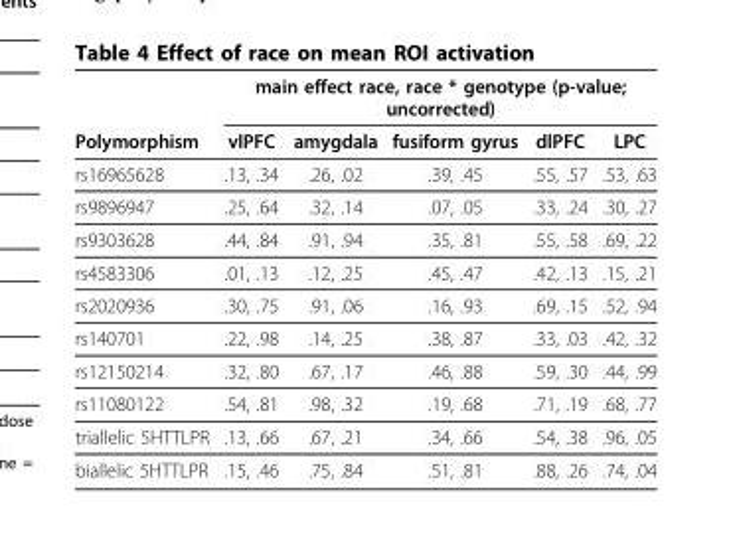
<table><thead><tr><td rowspan="2">Polymorphism</td><td colspan="5">main effect race, race * genotype (p-value; uncorrected)</td></tr><tr><td>vlPFC</td><td>amygdala</td><td>fusiform gyrus</td><td>dlPFC</td><td>LPC</td></tr></thead><tbody><tr><td>rs16965628</td><td>.13, .34</td><td>.26, .02</td><td>.39, .45</td><td>.55, .57</td><td>.53, .63</td></tr><tr><td>rs9896947</td><td>.25, .64</td><td>.32, .14</td><td>.07, .05</td><td>.33, .24</td><td>.30, .27</td></tr><tr><td>rs9303628</td><td>.44, .84</td><td>.91, .94</td><td>.35, .81</td><td>.55, .58</td><td>.69, .22</td></tr><tr><td>rs4583306</td><td>.01, .13</td><td>.12, .25</td><td>.45, .47</td><td>.42, .13</td><td>.15, .21</td></tr><tr><td>rs2020936</td><td>.30, .75</td><td>.91, .06</td><td>.16, .93</td><td>.69, .15</td><td>.52, .94</td></tr><tr><td>rs140701</td><td>.22, .98</td><td>.14, .25</td><td>.38, .87</td><td>.33, .03</td><td>.42, .32</td></tr><tr><td>rs12150214</td><td>.32, .80</td><td>.67, .17</td><td>.46, .88</td><td>.59, .30</td><td>.44, .99</td></tr><tr><td>rs11080122</td><td>.54, .81</td><td>.98, .32</td><td>.19, .68</td><td>.71, .19</td><td>.68, .77</td></tr><tr><td>triallelic 5HTTLPR</td><td>.13, .66</td><td>.67, .21</td><td>.34, .66</td><td>.54, .38</td><td>.96, .05</td></tr><tr><td>biallelic 5HTTLPR</td><td>.15, .46</td><td>.75, .84</td><td>.51, .81</td><td>.88, .26</td><td>.74, .04</td></tr></tbody></table>